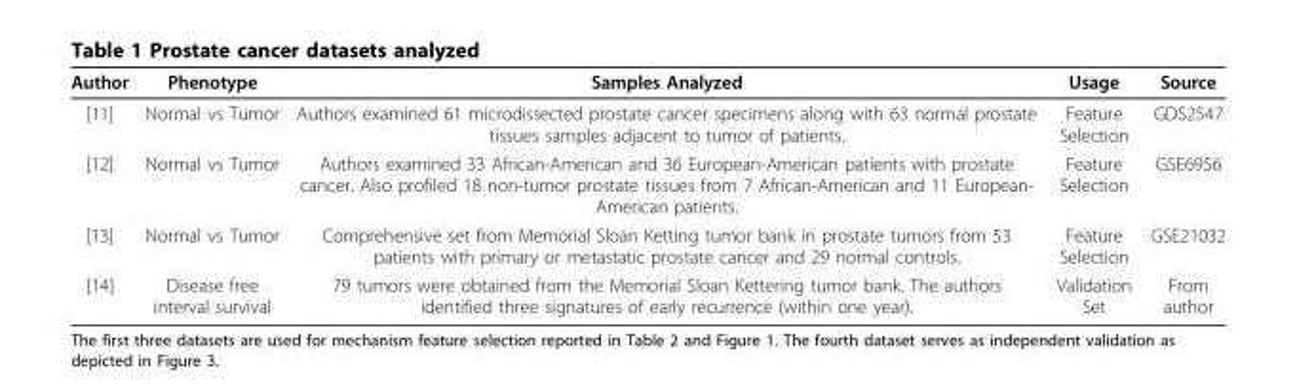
<table><thead><tr><td>Author</td><td>Phenotype</td><td>Samples Analyzed</td><td>Usage</td><td>Source</td></tr></thead><tbody><tr><td>[11]</td><td>Normal vs Tumor</td><td>Authors examined 61 microdissected prostate cancer specimens along with 63 normal prostate tissues samples adjacent to tumor of patients.</td><td>Feature Selection</td><td>GDS2547</td></tr><tr><td>[12]</td><td>Normal vs Tumor</td><td>Authors examined 33 African-American and 36 European-American patients with prostate cancer. Also profiled 18 non-tumor prostate tissues from 7 African-American and 11 European- American patients.</td><td>Feature Selection</td><td>GSE6956</td></tr><tr><td>[13]</td><td>Normal vs Tumor</td><td>Comprehensive set from Memorial Sloan Ketting tumor bank in prostate tumors from 53 patients with primary or metastatic prostate cancer and 29 normal controls.</td><td>Feature Selection</td><td>GSE21032</td></tr><tr><td>[14]</td><td>Disease free interval survival</td><td>79 tumors were obtained from the Memorial Sloan Kettering tumor bank. The authors identified three signatures of early recurrence (within one year).</td><td>Validation Set</td><td>From author</td></tr></tbody></table>